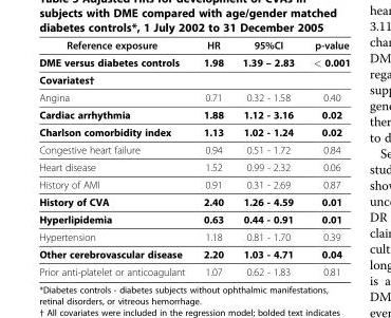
<table><thead><tr><td>Reference exposure</td><td>HR</td><td>95%CI</td><td>p-value</td></tr></thead><tbody><tr><td>DME versus diabetes controls</td><td>1.98</td><td>1.39 – 2.83</td><td>&lt; 0.001</td></tr><tr><td colspan="4">Covariates†</td></tr><tr><td>Angina</td><td>0.71</td><td>0.32 - 1.58</td><td>0.40</td></tr><tr><td>Cardiac arrhythmia</td><td>1.88</td><td>1.12 - 3.16</td><td>0.02</td></tr><tr><td>Charlson comorbidity index</td><td>1.13</td><td>1.02 - 1.24</td><td>0.02</td></tr><tr><td>Congestive heart failure</td><td>0.94</td><td>0.51 - 1.72</td><td>0.84</td></tr><tr><td>Heart disease</td><td>1.52</td><td>0.99 - 2.32</td><td>0.06</td></tr><tr><td>History of AMI</td><td>0.91</td><td>0.31 - 2.69</td><td>0.87</td></tr><tr><td>History of CVA</td><td>2.40</td><td>1.26 - 4.59</td><td>0.01</td></tr><tr><td>Hyperlipidemia</td><td>0.63</td><td>0.44 - 0.91</td><td>0.01</td></tr><tr><td>Hypertension</td><td>1.18</td><td>0.81 - 1.70</td><td>0.39</td></tr><tr><td>Other cerebrovascular disease</td><td>2.20</td><td>1.03 - 4.71</td><td>0.04</td></tr><tr><td>Prior anti-platelet or anticoagulant</td><td>1.07</td><td>0.62 - 1.83</td><td>0.81</td></tr></tbody></table>